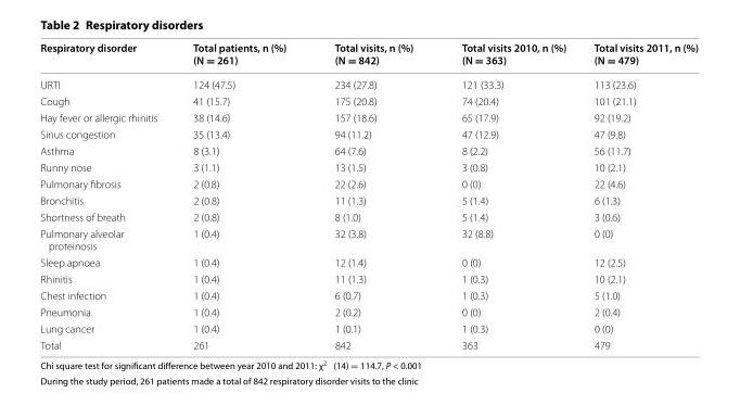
<table><thead><tr><td>Respiratory disorder</td><td>Total patients, n (%) (N = 261)</td><td>Total visits, n (%) (N = 842)</td><td>Total visits 2010, n (%) (N = 363)</td><td>Total visits 2011, n (%) (N = 479)</td></tr></thead><tbody><tr><td>URTI</td><td>124 (47.5)</td><td>234 (27.8)</td><td>121 (33.3)</td><td>113 (23.6)</td></tr><tr><td>Cough</td><td>41 (15.7)</td><td>175 (20.8)</td><td>74 (20.4)</td><td>101 (21.1)</td></tr><tr><td>Hay fever or allergic rhinitis</td><td>38 (14.6)</td><td>157 (18.6)</td><td>65 (17.9)</td><td>92 (19.2)</td></tr><tr><td>Sinus congestion</td><td>35 (13.4)</td><td>94 (11.2)</td><td>47 (12.9)</td><td>47 (9.8)</td></tr><tr><td>Asthma</td><td>8 (3.1)</td><td>64 (7.6)</td><td>8 (2.2)</td><td>56 (11.7)</td></tr><tr><td>Runny nose</td><td>3 (1.1)</td><td>13 (1.5)</td><td>3 (0.8)</td><td>10 (2.1)</td></tr><tr><td>Pulmonary fibrosis</td><td>2 (0.8)</td><td>22 (2.6)</td><td>0 (0)</td><td>22 (4.6)</td></tr><tr><td>Bronchitis</td><td>2 (0.8)</td><td>11 (1.3)</td><td>5 (1.4)</td><td>6 (1.3)</td></tr><tr><td>Shortness of breath</td><td>2 (0.8)</td><td>8 (1.0)</td><td>5 (1.4)</td><td>3 (0.6)</td></tr><tr><td>Pulmonary alveolar proteinosis</td><td>1 (0.4)</td><td>32 (3.8)</td><td>32 (8.8)</td><td>0 (0)</td></tr><tr><td>Sleep apnoea</td><td>1 (0.4)</td><td>12 (1.4)</td><td>0 (0)</td><td>12 (2.5)</td></tr><tr><td>Rhinitis</td><td>1 (0.4)</td><td>11 (1.3)</td><td>1 (0.3)</td><td>10 (2.1)</td></tr><tr><td>Chest infection</td><td>1 (0.4)</td><td>6 (0.7)</td><td>1 (0.3)</td><td>5 (1.0)</td></tr><tr><td>Pneumonia</td><td>1 (0.4)</td><td>2 (0.2)</td><td>0 (0)</td><td>2 (0.4)</td></tr><tr><td>Lung cancer</td><td>1 (0.4)</td><td>1 (0.1)</td><td>1 (0.3)</td><td>0 (0)</td></tr><tr><td>Total</td><td>261</td><td>842</td><td>363</td><td>479</td></tr></tbody></table>